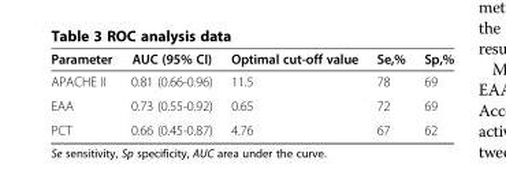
<table><thead><tr><td>Parameter</td><td>AUC (95% CI)</td><td>Optimal cut-off value</td><td>Se,%</td><td>Sp,%</td></tr></thead><tbody><tr><td>APACHE II</td><td>0.81 (0.66-0.96)</td><td>11.5</td><td>78</td><td>69</td></tr><tr><td>EAA</td><td>0.73 (0.55-0.92)</td><td>0.65</td><td>72</td><td>69</td></tr><tr><td>PCT</td><td>0.66 (0.45-0.87)</td><td>4.76</td><td>67</td><td>62</td></tr></tbody></table>